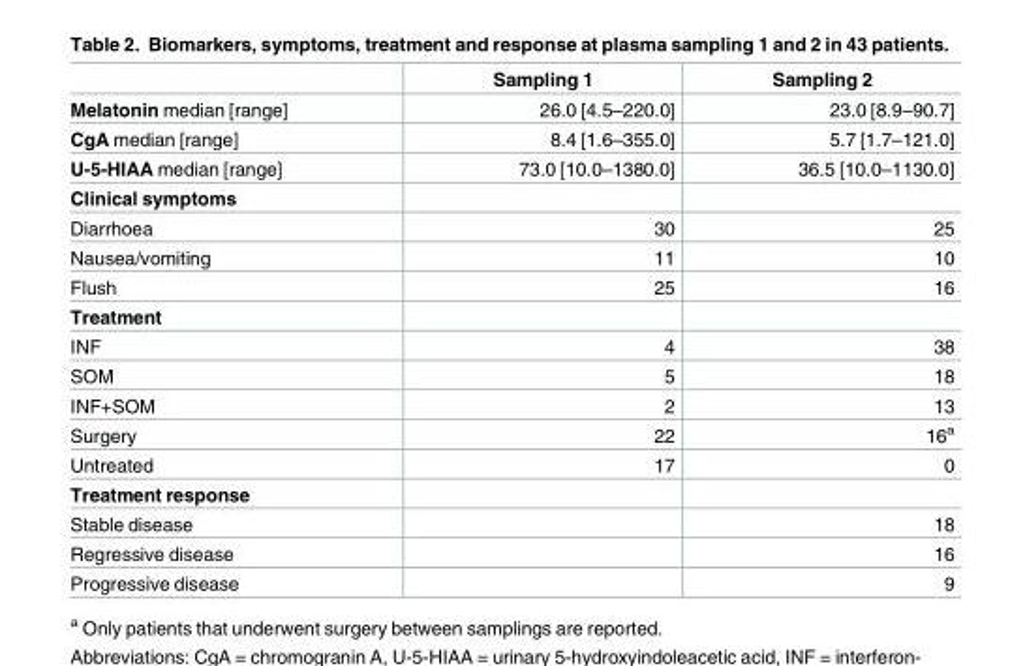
<table><thead><tr><td></td><td>Sampling 1</td><td>Sampling 2</td></tr></thead><tbody><tr><td>Melatonin median [range]</td><td>26.0 [4.5–220.0]</td><td>23.0 [8.9–90.7]</td></tr><tr><td>CgA median [range]</td><td>8.4 [1.6–355.0]</td><td>5.7 [1.7–121.0]</td></tr><tr><td>U-5-HIAA median [range]</td><td>73.0 [10.0–1380.0]</td><td>36.5 [10.0–1130.0]</td></tr><tr><td colspan="3">Clinical symptoms</td></tr><tr><td>Diarrhoea</td><td>30</td><td>25</td></tr><tr><td>Nausea/vomiting</td><td>11</td><td>10</td></tr><tr><td>Flush</td><td>25</td><td>16</td></tr><tr><td colspan="3">Treatment</td></tr><tr><td>INF</td><td>4</td><td>38</td></tr><tr><td>SOM</td><td>5</td><td>18</td></tr><tr><td>INF+SOM</td><td>2</td><td>13</td></tr><tr><td>Surgery</td><td>22</td><td>16<sup>a</sup></td></tr><tr><td>Untreated</td><td>17</td><td>0</td></tr><tr><td colspan="3">Treatment response</td></tr><tr><td>Stable disease</td><td></td><td>18</td></tr><tr><td>Regressive disease</td><td></td><td>16</td></tr><tr><td>Progressive disease</td><td></td><td>9</td></tr></tbody></table>